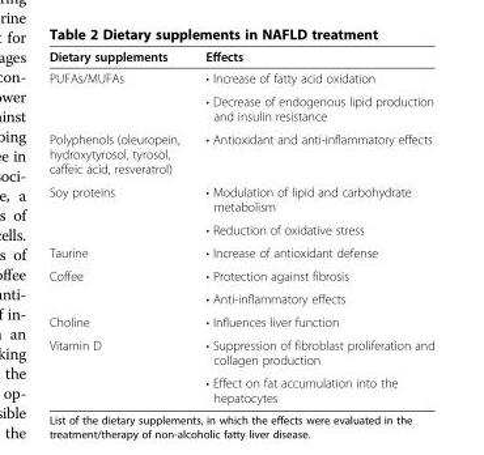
<table><thead><tr><td>Dietary supplements</td><td>Effects</td></tr></thead><tbody><tr><td rowspan="2">PUFAs/MUFAs</td><td>• Increase of fatty acid oxidation</td></tr><tr><td>• Decrease of endogenous lipid production and insulin resistance</td></tr><tr><td>Polyphenols (oleuropein, hydroxytyrosol, tyrosol, caffeic acid, resveratrol)</td><td>• Antioxidant and anti-inflammatory effects</td></tr><tr><td rowspan="2">Soy proteins</td><td>• Modulation of lipid and carbohydrate metabolism</td></tr><tr><td>• Reduction of oxidative stress</td></tr><tr><td>Taurine</td><td>• Increase of antioxidant defense</td></tr><tr><td rowspan="2">Coffee</td><td>• Protection against fibrosis</td></tr><tr><td>• Anti-inflammatory effects</td></tr><tr><td>Choline</td><td>• Influences liver function</td></tr><tr><td rowspan="2">Vitamin D</td><td>• Suppression of fibroblast proliferation and collagen production</td></tr><tr><td>• Effect on fat accumulation into the hepatocytes</td></tr></tbody></table>